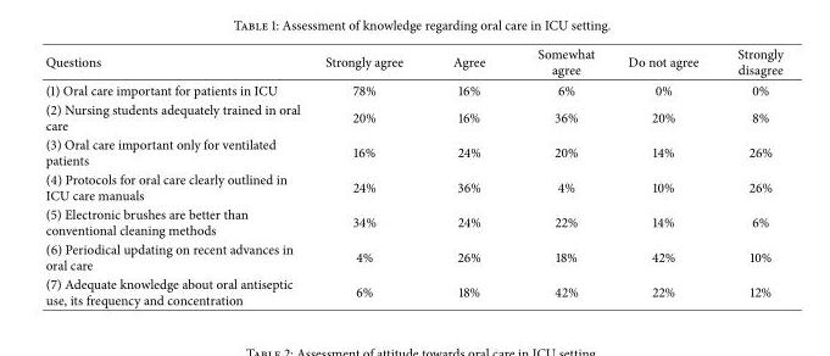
<table><thead><tr><td>Questions</td><td>Strongly agree</td><td>Agree</td><td>Somewhat agree</td><td>Do not agree</td><td>Strongly disagree</td></tr></thead><tbody><tr><td>(1) Oral care important for patients in ICU</td><td>78%</td><td>16%</td><td>6%</td><td>0%</td><td>0%</td></tr><tr><td>(2) Nursing students adequately trained in oral care</td><td>20%</td><td>16%</td><td>36%</td><td>20%</td><td>8%</td></tr><tr><td>(3) Oral care important only for ventilated patients</td><td>16%</td><td>24%</td><td>20%</td><td>14%</td><td>26%</td></tr><tr><td>(4) Protocols for oral care clearly outlined in ICU care manuals</td><td>24%</td><td>36%</td><td>4%</td><td>10%</td><td>26%</td></tr><tr><td>(5) Electronic brushes are better than conventional cleaning methods</td><td>34%</td><td>24%</td><td>22%</td><td>14%</td><td>6%</td></tr><tr><td>(6) Periodical updating on recent advances in oral care</td><td>4%</td><td>26%</td><td>18%</td><td>42%</td><td>10%</td></tr><tr><td>(7) Adequate knowledge about oral antiseptic use, its frequency and concentration</td><td>6%</td><td>18%</td><td>42%</td><td>22%</td><td>12%</td></tr></tbody></table>